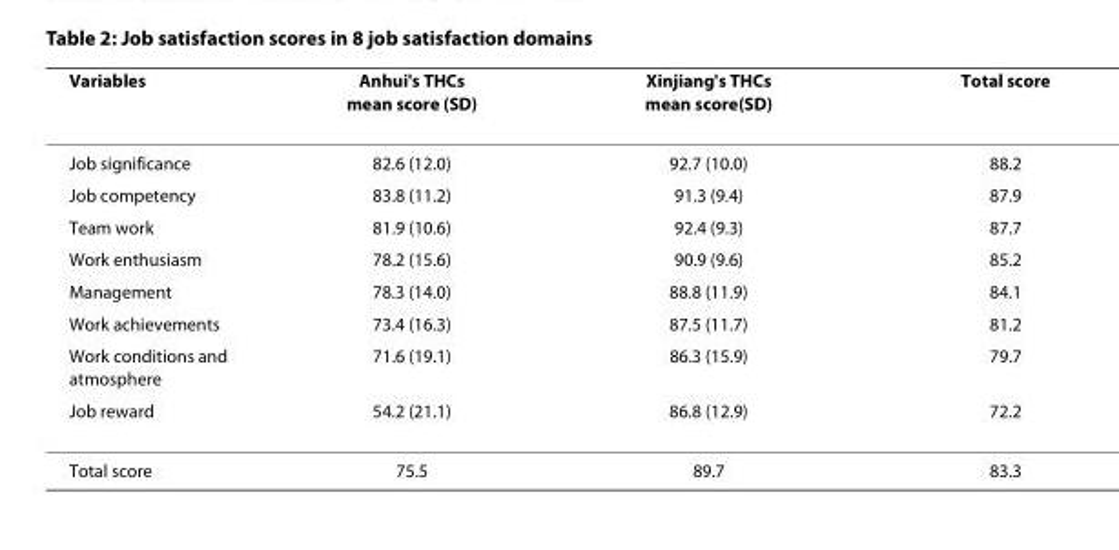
<table><thead><tr><td>Variables</td><td>Anhui&#x27;s THCs mean score (SD)</td><td>Xinjiang&#x27;s THCs mean score(SD)</td><td>Total score</td></tr></thead><tbody><tr><td>Job significance</td><td>82.6 (12.0)</td><td>92.7 (10.0)</td><td>88.2</td></tr><tr><td>Job competency</td><td>83.8 (11.2)</td><td>91.3 (9.4)</td><td>87.9</td></tr><tr><td>Team work</td><td>81.9 (10.6)</td><td>92.4 (9.3)</td><td>87.7</td></tr><tr><td>Work enthusiasm</td><td>78.2 (15.6)</td><td>90.9 (9.6)</td><td>85.2</td></tr><tr><td>Management</td><td>78.3 (14.0)</td><td>88.8 (11.9)</td><td>84.1</td></tr><tr><td>Work achievements</td><td>73.4 (16.3)</td><td>87.5 (11.7)</td><td>81.2</td></tr><tr><td>Work conditions and atmosphere</td><td>71.6 (19.1)</td><td>86.3 (15.9)</td><td>79.7</td></tr><tr><td>Job reward</td><td>54.2 (21.1)</td><td>86.8 (12.9)</td><td>72.2</td></tr><tr><td>Total score</td><td>75.5</td><td>89.7</td><td>83.3</td></tr></tbody></table>